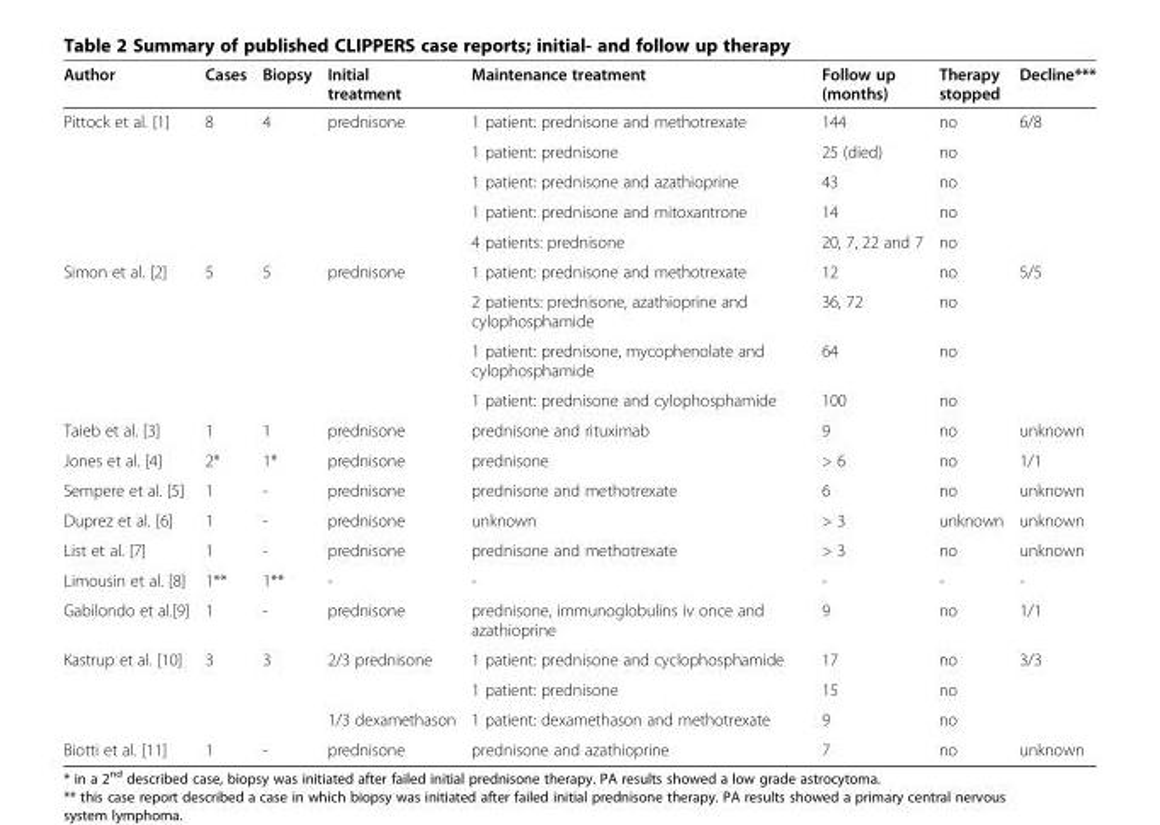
<table><thead><tr><td>Author</td><td>Cases</td><td>Biopsy</td><td>Initial treatment</td><td>Maintenance treatment</td><td>Follow up (months)</td><td>Therapy stopped</td><td>Decline***</td></tr></thead><tbody><tr><td rowspan="5">Pittock et al. [1]</td><td rowspan="5">8</td><td rowspan="5">4</td><td rowspan="5">prednisone</td><td>1 patient: prednisone and methotrexate</td><td>144</td><td>no</td><td rowspan="5">6/8</td></tr><tr><td>1 patient: prednisone</td><td>25 (died)</td><td>no</td></tr><tr><td>1 patient: prednisone and azathioprine</td><td>43</td><td>no</td></tr><tr><td>1 patient: prednisone and mitoxantrone</td><td>14</td><td>no</td></tr><tr><td>4 patients: prednisone</td><td>20, 7, 22 and 7</td><td>no</td></tr><tr><td rowspan="4">Simon et al. [2]</td><td rowspan="4">5</td><td rowspan="4">5</td><td rowspan="4">prednisone</td><td>1 patient: prednisone and methotrexate</td><td>12</td><td>no</td><td rowspan="4">5/5</td></tr><tr><td>2 patients: prednisone, azathioprine and cylophosphamide</td><td>36, 72</td><td>no</td></tr><tr><td>1 patient: prednisone, mycophenolate and cylophosphamide</td><td>64</td><td>no</td></tr><tr><td>1 patient: prednisone and cylophosphamide</td><td>100</td><td>no</td></tr><tr><td>Taieb et al. [3]</td><td>1</td><td>1</td><td>prednisone</td><td>prednisone and rituximab</td><td>9</td><td>no</td><td>unknown</td></tr><tr><td>Jones et al. [4]</td><td>2*</td><td>1*</td><td>prednisone</td><td>prednisone</td><td>&gt; 6</td><td>no</td><td>1/1</td></tr><tr><td>Sempere et al. [5]</td><td>1</td><td>-</td><td>prednisone</td><td>prednisone and methotrexate</td><td>6</td><td>no</td><td>unknown</td></tr><tr><td>Duprez et al. [6]</td><td>1</td><td>-</td><td>prednisone</td><td>unknown</td><td>&gt; 3</td><td>unknown</td><td>unknown</td></tr><tr><td>List et al. [7]</td><td>1</td><td>-</td><td>prednisone</td><td>prednisone and methotrexate</td><td>&gt; 3</td><td>no</td><td>unknown</td></tr><tr><td>Limousin et al. [8]</td><td>1**</td><td>1**</td><td>-</td><td>-</td><td>-</td><td>-</td><td>-</td></tr><tr><td>Gabilondo et al.[9]</td><td>1</td><td>-</td><td>prednisone</td><td>prednisone, immunoglobulins iv once and azathioprine</td><td>9</td><td>no</td><td>1/1</td></tr><tr><td rowspan="3">Kastrup et al. [10]</td><td rowspan="3">3</td><td rowspan="3">3</td><td rowspan="2">2/3 prednisone</td><td>1 patient: prednisone and cyclophosphamide</td><td>17</td><td>no</td><td rowspan="3">3/3</td></tr><tr><td>1 patient: prednisone</td><td>15</td><td>no</td></tr><tr><td>1/3 dexamethason</td><td>1 patient: dexamethason and methotrexate</td><td>9</td><td>no</td></tr><tr><td>Biotti et al. [11]</td><td>1</td><td>-</td><td>prednisone</td><td>prednisone and azathioprine</td><td>7</td><td>no</td><td>unknown</td></tr></tbody></table>